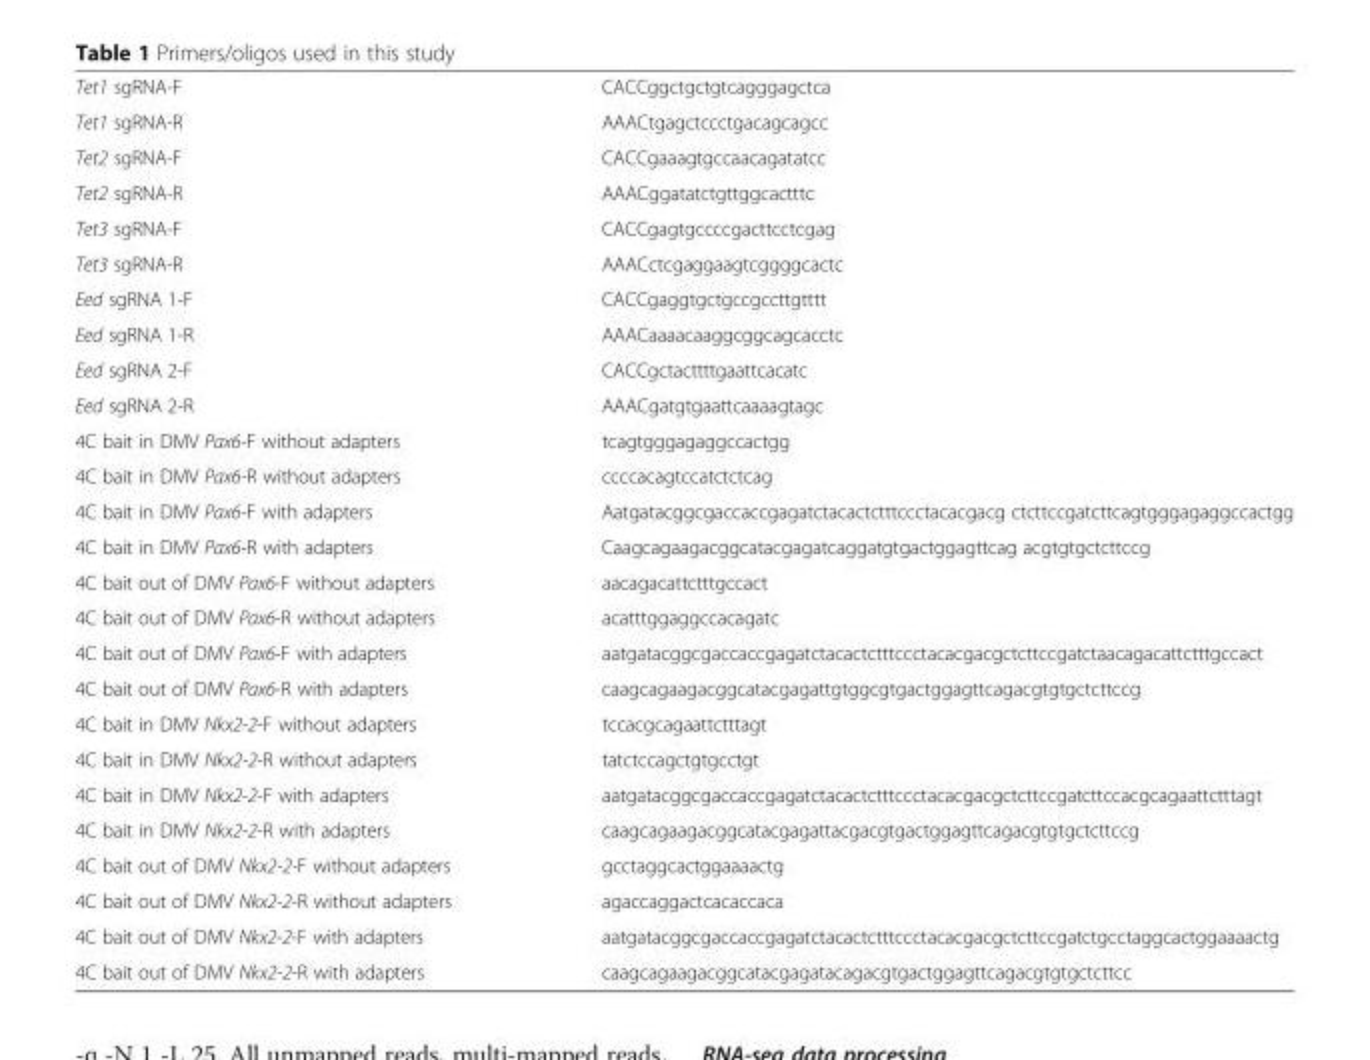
<table><tbody><tr><td>Tet1 sgRNA-F</td><td>CACCggctgctgtcagggagctca</td></tr><tr><td>Tet1 sgRNA-R</td><td>AAACtgagctccctgacagcagcc</td></tr><tr><td>Tet2 sgRNA-F</td><td>CACCgaaagtgccaacagatatcc</td></tr><tr><td>Tet2 sgRNA-R</td><td>AAACggatatctgttggcactttc</td></tr><tr><td>Tet3 sgRNA-F</td><td>CACCgagtgccccgacttcctcgag</td></tr><tr><td>Tet3 sgRNA-R</td><td>AAACctcgaggaagtcggggcactc</td></tr><tr><td>Eed sgRNA 1-F</td><td>CACCgaggtgctgccgccttgtttt</td></tr><tr><td>Eed sgRNA 1-R</td><td>AAACaaaacaaggcggcagcacctc</td></tr><tr><td>Eed sgRNA 2-F</td><td>CACCgctacttttgaattcacatc</td></tr><tr><td>Eed sgRNA 2-R</td><td>AAACgatgtgaattcaaaagtagc</td></tr><tr><td>4C bait in DMV Pax6-F without adapters</td><td>tcagtgggagaggccactgg</td></tr><tr><td>4C bait in DMV Pax6-R without adapters</td><td>ccccacagtccatctctcag</td></tr><tr><td>4C bait in DMV Pax6-F with adapters</td><td>Aatgatacggcgaccaccgagatctacactctttccctacacgacg ctcttccgatcttcagtgggagaggccactgg</td></tr><tr><td>4C bait in DMV Pax6-R with adapters</td><td>Caagcagaagacggcatacgagatcaggatgtgactggagttcag acgtgtgctcttccg</td></tr><tr><td>4C bait out of DMV Pax6-F without adapters</td><td>aacagacattctttgccact</td></tr><tr><td>4C bait out of DMV Pax6-R without adapters</td><td>acatttggaggccacagatc</td></tr><tr><td>4C bait out of DMV Pax6-F with adapters</td><td>aatgatacggcgaccaccgagatctacactctttccctacacgacgctcttccgatctaacagacattctttgccact</td></tr><tr><td>4C bait out of DMV Pax6-R with adapters</td><td>caagcagaagacggcatacgagattgtggcgtgactggagttcagacgtgtgctcttccg</td></tr><tr><td>4C bait in DMV Nkx2-2-F without adapters</td><td>tccacgcagaattctttagt</td></tr><tr><td>4C bait in DMV Nkx2-2-R without adapters</td><td>tatctccagctgtgcctgt</td></tr><tr><td>4C bait in DMV Nkx2-2-F with adapters</td><td>aatgatacggcgaccaccgagatctacactctttccctacacgacgctcttccgatcttccacgcagaattctttagt</td></tr><tr><td>4C bait in DMV Nkx2-2-R with adapters</td><td>caagcagaagacggcatacgagattacgacgtgactggagttcagacgtgtgctcttccg</td></tr><tr><td>4C bait out of DMV Nkx2-2-F without adapters</td><td>gcctaggcactggaaaactg</td></tr><tr><td>4C bait out of DMV Nkx2-2-R without adapters</td><td>agaccaggactcacaccaca</td></tr><tr><td>4C bait out of DMV Nkx2-2-F with adapters</td><td>aatgatacggcgaccaccgagatctacactctttccctacacgacgctcttccgatctgcctaggcactggaaaactg</td></tr><tr><td>4C bait out of DMV Nkx2-2-R with adapters</td><td>caagcagaagacggcatacgagatacagacgtgactggagttcagacgtgtgctcttcc</td></tr></tbody></table>